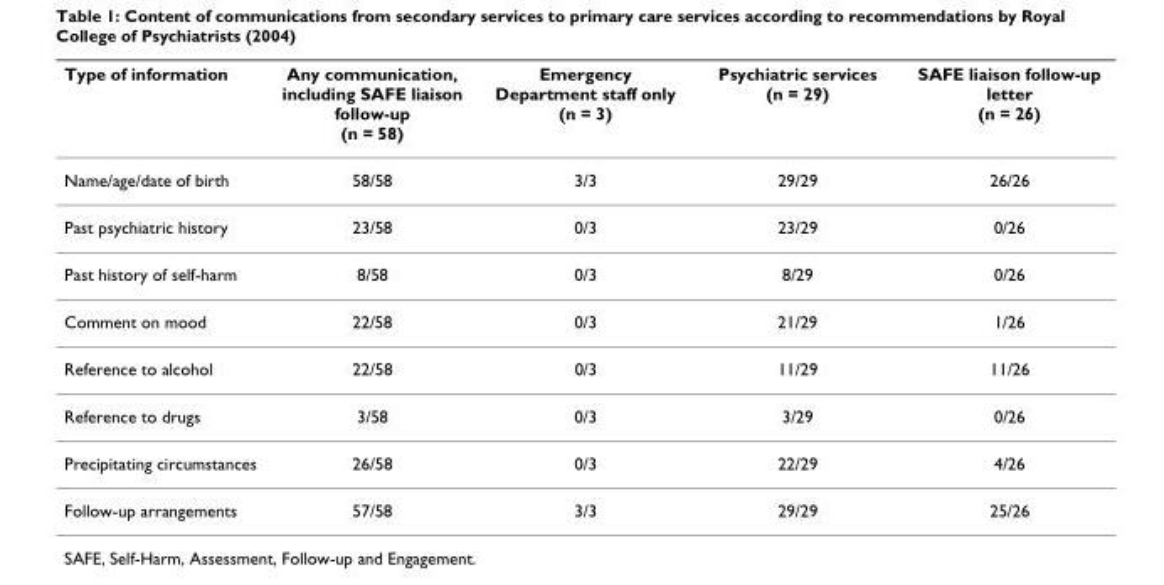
<table><thead><tr><td>Type of information</td><td>Any communication, including SAFE liaison follow-up (n = 58)</td><td>Emergency Department staff only (n = 3)</td><td>Psychiatric services (n = 29)</td><td>SAFE liaison follow-up letter (n = 26)</td></tr></thead><tbody><tr><td>Name/age/date of birth</td><td>58/58</td><td>3/3</td><td>29/29</td><td>26/26</td></tr><tr><td>Past psychiatric history</td><td>23/58</td><td>0/3</td><td>23/29</td><td>0/26</td></tr><tr><td>Past history of self-harm</td><td>8/58</td><td>0/3</td><td>8/29</td><td>0/26</td></tr><tr><td>Comment on mood</td><td>22/58</td><td>0/3</td><td>21/29</td><td>1/26</td></tr><tr><td>Reference to alcohol</td><td>22/58</td><td>0/3</td><td>11/29</td><td>11/26</td></tr><tr><td>Reference to drugs</td><td>3/58</td><td>0/3</td><td>3/29</td><td>0/26</td></tr><tr><td>Precipitating circumstances</td><td>26/58</td><td>0/3</td><td>22/29</td><td>4/26</td></tr><tr><td>Follow-up arrangements</td><td>57/58</td><td>3/3</td><td>29/29</td><td>25/26</td></tr></tbody></table>